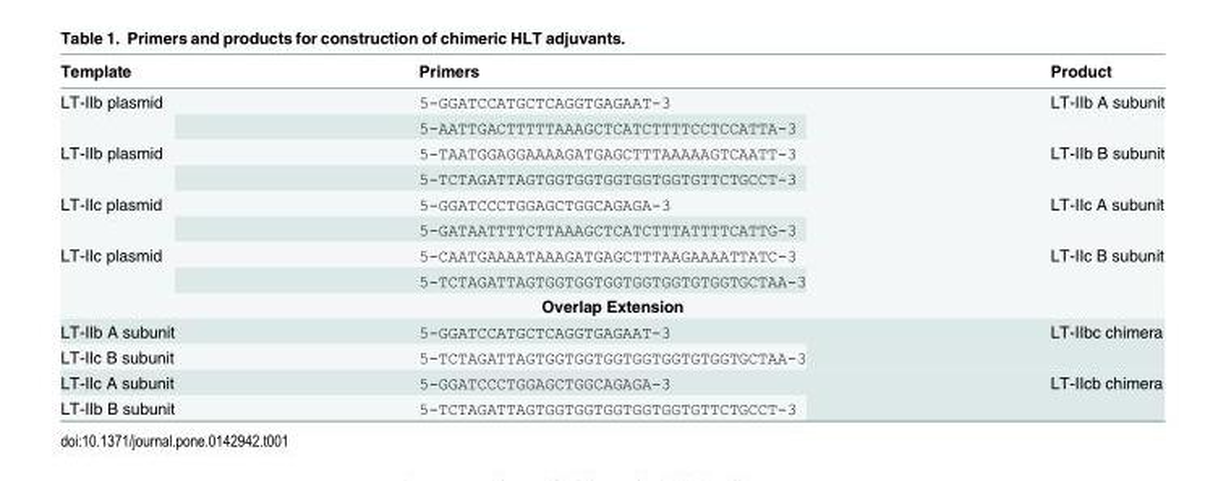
<table><thead><tr><td>Template</td><td>Primers</td><td>Product</td></tr></thead><tbody><tr><td rowspan="2">LT-IIb plasmid</td><td>5-GGATCCATGCTCAGGTGAGAAT-3</td><td rowspan="2">LT-IIb A subunit</td></tr><tr><td>5-AATTGACTTTTTAAAGCTCATCTTTTCCTCCATTA-3</td></tr><tr><td rowspan="2">LT-IIb plasmid</td><td>5-TAATGGAGGAAAAGATGAGCTTTAAAAAGTCAATT-3</td><td rowspan="2">LT-IIb B subunit</td></tr><tr><td>5-TCTAGATTAGTGGTGGTGGTGGTGGTGTTCTGCCT-3</td></tr><tr><td rowspan="2">LT-IIc plasmid</td><td>5-GGATCCCTGGAGCTGGCAGAGA-3</td><td rowspan="2">LT-IIc A subunit</td></tr><tr><td>5-GATAATTTTCTTAAAGCTCATCTTTATTTTCATTG-3</td></tr><tr><td rowspan="2">LT-IIc plasmid</td><td>5-CAATGAAAATAAAGATGAGCTTTAAGAAAATTATC-3</td><td rowspan="2">LT-IIc B subunit</td></tr><tr><td>5-TCTAGATTAGTGGTGGTGGTGGTGGTGTGGTGCTAA-3</td></tr><tr><td colspan="3">Overlap Extension</td></tr><tr><td>LT-IIb A subunit</td><td>5-GGATCCATGCTCAGGTGAGAAT-3</td><td rowspan="2">LT-IIbc chimera</td></tr><tr><td>LT-IIc B subunit</td><td>5-TCTAGATTAGTGGTGGTGGTGGTGGTGTGGTGCTAA-3</td></tr><tr><td>LT-IIc A subunit</td><td>5-GGATCCCTGGAGCTGGCAGAGA-3</td><td rowspan="2">LT-IIcb chimera</td></tr><tr><td>LT-IIb B subunit</td><td>5-TCTAGATTAGTGGTGGTGGTGGTGGTGTTCTGCCT-3</td></tr></tbody></table>